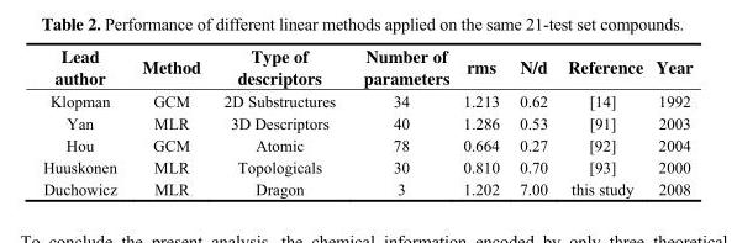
<table><thead><tr><td>Lead author</td><td>Method</td><td>Type of descriptors</td><td>Number of parameters</td><td>rms</td><td>N/d</td><td>Reference</td><td>Year</td></tr></thead><tbody><tr><td>Klopman</td><td>GCM</td><td>2D Substructures</td><td>34</td><td>1.213</td><td>0.62</td><td>[14]</td><td>1992</td></tr><tr><td>Yan</td><td>MLR</td><td>3D Descriptors</td><td>40</td><td>1.286</td><td>0.53</td><td>[91]</td><td>2003</td></tr><tr><td>Hou</td><td>GCM</td><td>Atomic</td><td>78</td><td>0.664</td><td>0.27</td><td>[92]</td><td>2004</td></tr><tr><td>Huuskonen</td><td>MLR</td><td>Topologicals</td><td>30</td><td>0.810</td><td>0.70</td><td>[93]</td><td>2000</td></tr><tr><td>Duchowicz</td><td>MLR</td><td>Dragon</td><td>3</td><td>1.202</td><td>7.00</td><td>this study</td><td>2008</td></tr></tbody></table>